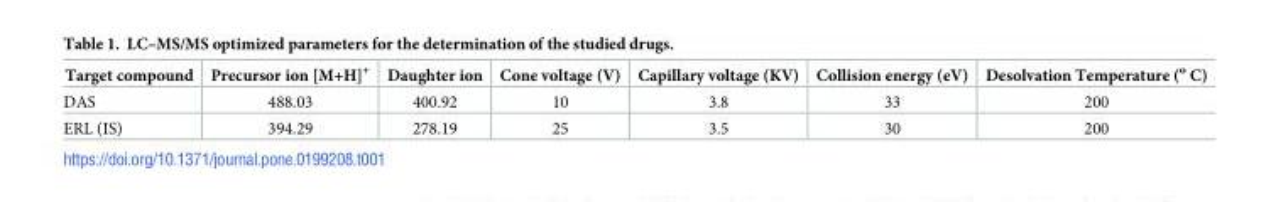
<table><thead><tr><td>Target compound</td><td>Precursor ion [M+H]<sup>+</sup></td><td>Daughter ion</td><td>Cone voltage (V)</td><td>Capillary voltage (KV)</td><td>Collision energy (eV)</td><td>Desolvation Temperature (<sup>o</sup> C)</td></tr></thead><tbody><tr><td>DAS</td><td>488.03</td><td>400.92</td><td>10</td><td>3.8</td><td>33</td><td>200</td></tr><tr><td>ERL (IS)</td><td>394.29</td><td>278.19</td><td>25</td><td>3.5</td><td>30</td><td>200</td></tr></tbody></table>